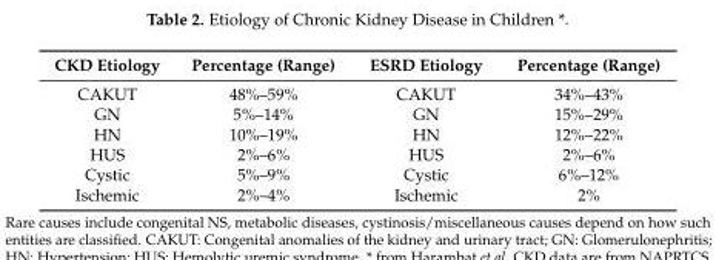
<table><thead><tr><td>CKD Etiology</td><td>Percentage (Range)</td><td>ESRD Etiology</td><td>Percentage (Range)</td></tr></thead><tbody><tr><td>CAKUT</td><td>48%–59%</td><td>CAKUT</td><td>34%–43%</td></tr><tr><td>GN</td><td>5%–14%</td><td>GN</td><td>15%–29%</td></tr><tr><td>HN</td><td>10%–19%</td><td>HN</td><td>12%–22%</td></tr><tr><td>HUS</td><td>2%–6%</td><td>HUS</td><td>2%–6%</td></tr><tr><td>Cystic</td><td>5%–9%</td><td>Cystic</td><td>6%–12%</td></tr><tr><td>Ischemic</td><td>2%–4%</td><td>Ischemic</td><td>2%</td></tr></tbody></table>